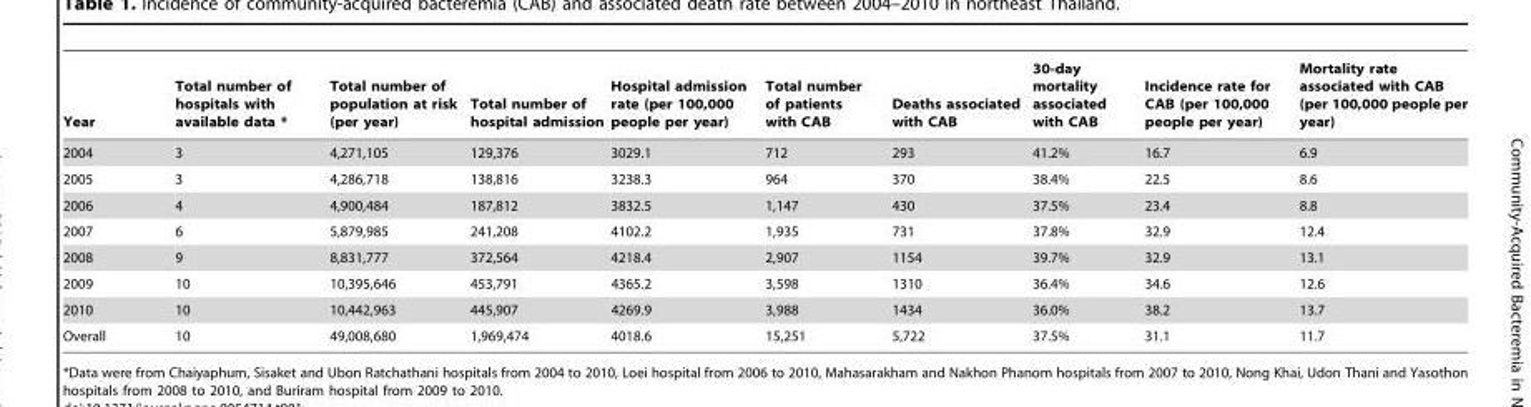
<table><thead><tr><td>Year</td><td>Total number of hospitals with available data *</td><td>Total number of population at risk (per year)</td><td>Total number of hospital admission</td><td>Hospital admission rate (per 100,000 people per year)</td><td>Total number of patients with CAB</td><td>Deaths associated with CAB</td><td>30-day mortality associated with CAB</td><td>Incidence rate for CAB (per 100,000 people per year)</td><td>Mortality rate associated with CAB (per 100,000 people per year)</td></tr></thead><tbody><tr><td>2004</td><td>3</td><td>4,271,105</td><td>129,376</td><td>3029.1</td><td>712</td><td>293</td><td>41.2%</td><td>16.7</td><td>6.9</td></tr><tr><td>2005</td><td>3</td><td>4,286,718</td><td>138,816</td><td>3238.3</td><td>964</td><td>370</td><td>38.4%</td><td>22.5</td><td>8.6</td></tr><tr><td>2006</td><td>4</td><td>4,900,484</td><td>187,812</td><td>3832.5</td><td>1,147</td><td>430</td><td>37.5%</td><td>23.4</td><td>8.8</td></tr><tr><td>2007</td><td>6</td><td>5,879,985</td><td>241,208</td><td>4102.2</td><td>1,935</td><td>731</td><td>37.8%</td><td>32.9</td><td>12.4</td></tr><tr><td>2008</td><td>9</td><td>8,831,777</td><td>372,564</td><td>4218.4</td><td>2,907</td><td>1154</td><td>39.7%</td><td>32.9</td><td>13.1</td></tr><tr><td>2009</td><td>10</td><td>10,395,646</td><td>453,791</td><td>4365.2</td><td>3,598</td><td>1310</td><td>36.4%</td><td>34.6</td><td>12.6</td></tr><tr><td>2010</td><td>10</td><td>10,442,963</td><td>445,907</td><td>4269.9</td><td>3,988</td><td>1434</td><td>36.0%</td><td>38.2</td><td>13.7</td></tr><tr><td>Overall</td><td>10</td><td>49,008,680</td><td>1,969,474</td><td>4018.6</td><td>15,251</td><td>5,722</td><td>37.5%</td><td>31.1</td><td>11.7</td></tr></tbody></table>